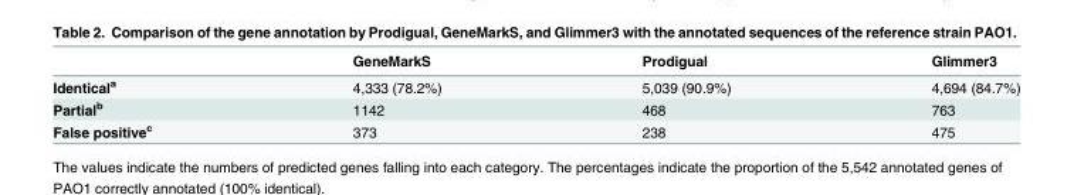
<table><thead><tr><td></td><td>GeneMarkS</td><td>Prodigual</td><td>Glimmer3</td></tr></thead><tbody><tr><td>Identical<sup>a</sup></td><td>4,333 (78.2%)</td><td>5,039 (90.9%)</td><td>4,694 (84.7%)</td></tr><tr><td>Partial<sup>b</sup></td><td>1142</td><td>468</td><td>763</td></tr><tr><td>False positive<sup>c</sup></td><td>373</td><td>238</td><td>475</td></tr></tbody></table>